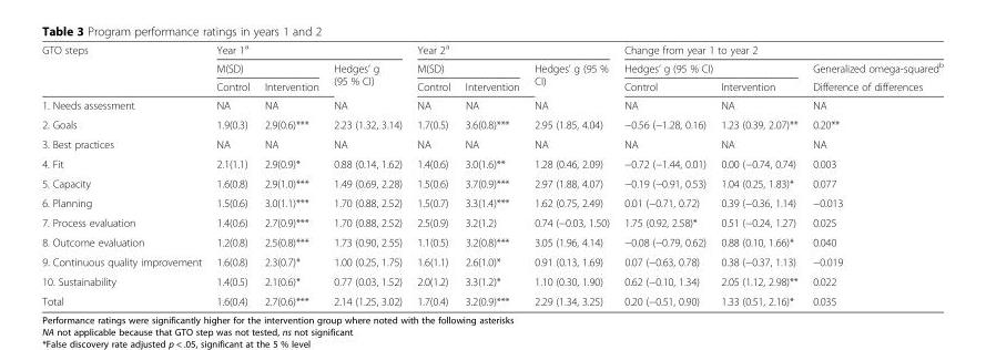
<table><thead><tr><td rowspan="3">GTO steps</td><td colspan="3">Year 1<sup>a</sup></td><td colspan="3">Year 2<sup>a</sup></td><td colspan="3">Change from year 1 to year 2</td></tr><tr><td colspan="2">M(SD)</td><td rowspan="2">Hedges’ g (95 % CI)</td><td colspan="2">M(SD)</td><td rowspan="2">Hedges’ g (95 % CI)</td><td colspan="2">Hedges’ g (95 % CI)</td><td rowspan="2">Generalized omega-squared<sup>b</sup> Difference of differences</td></tr><tr><td>Control</td><td>Intervention</td><td>Control</td><td>Intervention</td><td>Control</td><td>Intervention</td></tr></thead><tbody><tr><td>1. Needs assessment</td><td>NA</td><td>NA</td><td>NA</td><td>NA</td><td>NA</td><td>NA</td><td>NA</td><td>NA</td><td>NA</td></tr><tr><td>2. Goals</td><td>1.9(0.3)</td><td>2.9(0.6)***</td><td>2.23 (1.32, 3.14)</td><td>1.7(0.5)</td><td>3.6(0.8)***</td><td>2.95 (1.85, 4.04)</td><td>−0.56 (−1.28, 0.16)</td><td>1.23 (0.39, 2.07)**</td><td>0.20**</td></tr><tr><td>3. Best practices</td><td>NA</td><td>NA</td><td>NA</td><td>NA</td><td>NA</td><td>NA</td><td>NA</td><td>NA</td><td>NA</td></tr><tr><td>4. Fit</td><td>2.1(1.1)</td><td>2.9(0.9)*</td><td>0.88 (0.14, 1.62)</td><td>1.4(0.6)</td><td>3.0(1.6)**</td><td>1.28 (0.46, 2.09)</td><td>−0.72 (−1.44, 0.01)</td><td>0.00 (−0.74, 0.74)</td><td>0.003</td></tr><tr><td>5. Capacity</td><td>1.6(0.8)</td><td>2.9(1.0)***</td><td>1.49 (0.69, 2.28)</td><td>1.5(0.6)</td><td>3.7(0.9)***</td><td>2.97 (1.88, 4.07)</td><td>−0.19 (−0.91, 0.53)</td><td>1.04 (0.25, 1.83)*</td><td>0.077</td></tr><tr><td>6. Planning</td><td>1.5(0.6)</td><td>3.0(1.1)***</td><td>1.70 (0.88, 2.52)</td><td>1.5(0.7)</td><td>3.3(1.4)***</td><td>1.62 (0.75, 2.49)</td><td>0.01 (−0.71, 0.72)</td><td>0.39 (−0.36, 1.14)</td><td>−0.013</td></tr><tr><td>7. Process evaluation</td><td>1.4(0.6)</td><td>2.7(0.9)***</td><td>1.70 (0.88, 2.52)</td><td>2.5(0.9)</td><td>3.2(1.2)</td><td>0.74 (−0.03, 1.50)</td><td>1.75 (0.92, 2.58)*</td><td>0.51 (−0.24, 1.27)</td><td>0.025</td></tr><tr><td>8. Outcome evaluation</td><td>1.2(0.8)</td><td>2.5(0.8)***</td><td>1.73 (0.90, 2.55)</td><td>1.1(0.5)</td><td>3.2(0.8)***</td><td>3.05 (1.96, 4.14)</td><td>−0.08 (−0.79, 0.62)</td><td>0.88 (0.10, 1.66)*</td><td>0.040</td></tr><tr><td>9. Continuous quality improvement</td><td>1.6(0.8)</td><td>2.3(0.7)*</td><td>1.00 (0.25, 1.75)</td><td>1.6(1.1)</td><td>2.6(1.0)*</td><td>0.91 (0.13, 1.69)</td><td>0.07 (−0.63, 0.78)</td><td>0.38 (−0.37, 1.13)</td><td>−0.019</td></tr><tr><td>10. Sustainability</td><td>1.4(0.5)</td><td>2.1(0.6)*</td><td>0.77 (0.03, 1.52)</td><td>2.0(1.2)</td><td>3.3(1.2)*</td><td>1.10 (0.30, 1.90)</td><td>0.62 (−0.10, 1.34)</td><td>2.05 (1.12, 2.98)**</td><td>0.022</td></tr><tr><td>Total</td><td>1.6(0.4)</td><td>2.7(0.6)***</td><td>2.14 (1.25, 3.02)</td><td>1.7(0.4)</td><td>3.2(0.9)***</td><td>2.29 (1.34, 3.25)</td><td>0.20 (−0.51, 0.90)</td><td>1.33 (0.51, 2.16)*</td><td>0.035</td></tr></tbody></table>